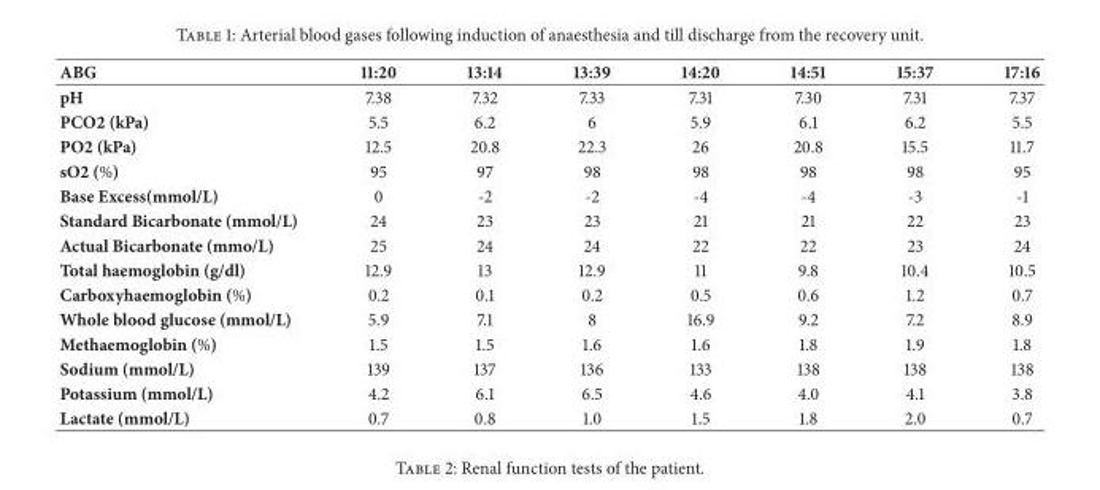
<table><thead><tr><td>ABG</td><td>11:20</td><td>13:14</td><td>13:39</td><td>14:20</td><td>14:51</td><td>15:37</td><td>17:16</td></tr></thead><tbody><tr><td>pH</td><td>7.38</td><td>7.32</td><td>7.33</td><td>7.31</td><td>7.30</td><td>7.31</td><td>7.37</td></tr><tr><td>PCO2 (kPa)</td><td>5.5</td><td>6.2</td><td>6</td><td>5.9</td><td>6.1</td><td>6.2</td><td>5.5</td></tr><tr><td>PO2 (kPa)</td><td>12.5</td><td>20.8</td><td>22.3</td><td>26</td><td>20.8</td><td>15.5</td><td>11.7</td></tr><tr><td>sO2 (%)</td><td>95</td><td>97</td><td>98</td><td>98</td><td>98</td><td>98</td><td>95</td></tr><tr><td>Base Excess(mmol/L)</td><td>0</td><td>-2</td><td>-2</td><td>-4</td><td>-4</td><td>-3</td><td>-1</td></tr><tr><td>Standard Bicarbonate (mmol/L)</td><td>24</td><td>23</td><td>23</td><td>21</td><td>21</td><td>22</td><td>23</td></tr><tr><td>Actual Bicarbonate (mmo/L)</td><td>25</td><td>24</td><td>24</td><td>22</td><td>22</td><td>23</td><td>24</td></tr><tr><td>Total haemoglobin (g/dl)</td><td>12.9</td><td>13</td><td>12.9</td><td>11</td><td>9.8</td><td>10.4</td><td>10.5</td></tr><tr><td>Carboxyhaemoglobin (%)</td><td>0.2</td><td>0.1</td><td>0.2</td><td>0.5</td><td>0.6</td><td>1.2</td><td>0.7</td></tr><tr><td>Whole blood glucose (mmol/L)</td><td>5.9</td><td>7.1</td><td>8</td><td>16.9</td><td>9.2</td><td>7.2</td><td>8.9</td></tr><tr><td>Methaemoglobin (%)</td><td>1.5</td><td>1.5</td><td>1.6</td><td>1.6</td><td>1.8</td><td>1.9</td><td>1.8</td></tr><tr><td>Sodium (mmol/L)</td><td>139</td><td>137</td><td>136</td><td>133</td><td>138</td><td>138</td><td>138</td></tr><tr><td>Potassium (mmol/L)</td><td>4.2</td><td>6.1</td><td>6.5</td><td>4.6</td><td>4.0</td><td>4.1</td><td>3.8</td></tr><tr><td>Lactate (mmol/L)</td><td>0.7</td><td>0.8</td><td>1.0</td><td>1.5</td><td>1.8</td><td>2.0</td><td>0.7</td></tr></tbody></table>